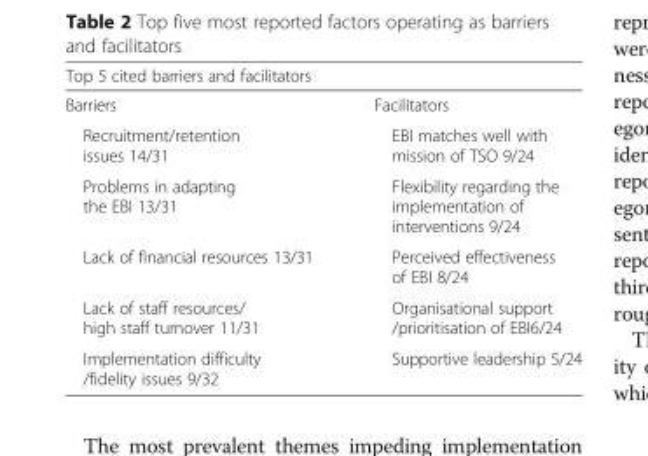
<table><thead><tr><td colspan="2">Top 5 cited barriers and facilitators</td></tr><tr><td>Barriers</td><td>Facilitators</td></tr></thead><tbody><tr><td>Recruitment/retention issues 14/31</td><td>EBI matches well with mission of TSO 9/24</td></tr><tr><td>Problems in adapting the EBI 13/31</td><td>Flexibility regarding the implementation of interventions 9/24</td></tr><tr><td>Lack of financial resources 13/31</td><td>Perceived effectiveness of EBI 8/24</td></tr><tr><td>Lack of staff resources/ high staff turnover 11/31</td><td>Organisational support /prioritisation of EBI6/24</td></tr><tr><td>Implementation difficulty /fidelity issues 9/32</td><td>Supportive leadership 5/24</td></tr></tbody></table>